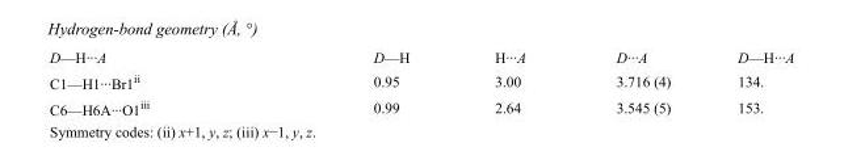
<table><tbody><tr><td>D—H···A</td><td>D—H</td><td>H···A</td><td>D···A</td><td>D—H···A</td></tr><tr><td>C1—H1···Br1<sup>ii</sup></td><td>0.95</td><td>3.00</td><td>3.716 (4)</td><td>134.</td></tr><tr><td>C6—H6A···O1<sup>iii</sup></td><td>0.99</td><td>2.64</td><td>3.545 (5)</td><td>153.</td></tr></tbody></table>